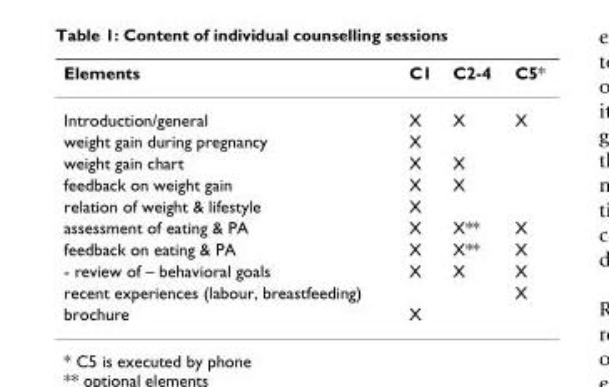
<table><thead><tr><td>Elements</td><td>C1</td><td>C2-4</td><td>C5*</td></tr></thead><tbody><tr><td>Introduction/general</td><td>X</td><td>X</td><td>X</td></tr><tr><td>weight gain during pregnancy</td><td>X</td><td></td><td></td></tr><tr><td>weight gain chart</td><td>X</td><td>X</td><td></td></tr><tr><td>feedback on weight gain</td><td>X</td><td>X</td><td></td></tr><tr><td>relation of weight &amp; lifestyle</td><td>X</td><td></td><td></td></tr><tr><td>assessment of eating &amp; PA</td><td>X</td><td>X**</td><td>X</td></tr><tr><td>feedback on eating &amp; PA</td><td>X</td><td>X**</td><td>X</td></tr><tr><td>- review of – behavioral goals</td><td>X</td><td>X</td><td>X</td></tr><tr><td>recent experiences (labour, breastfeeding)</td><td></td><td></td><td>X</td></tr><tr><td>brochure</td><td>X</td><td></td><td></td></tr></tbody></table>